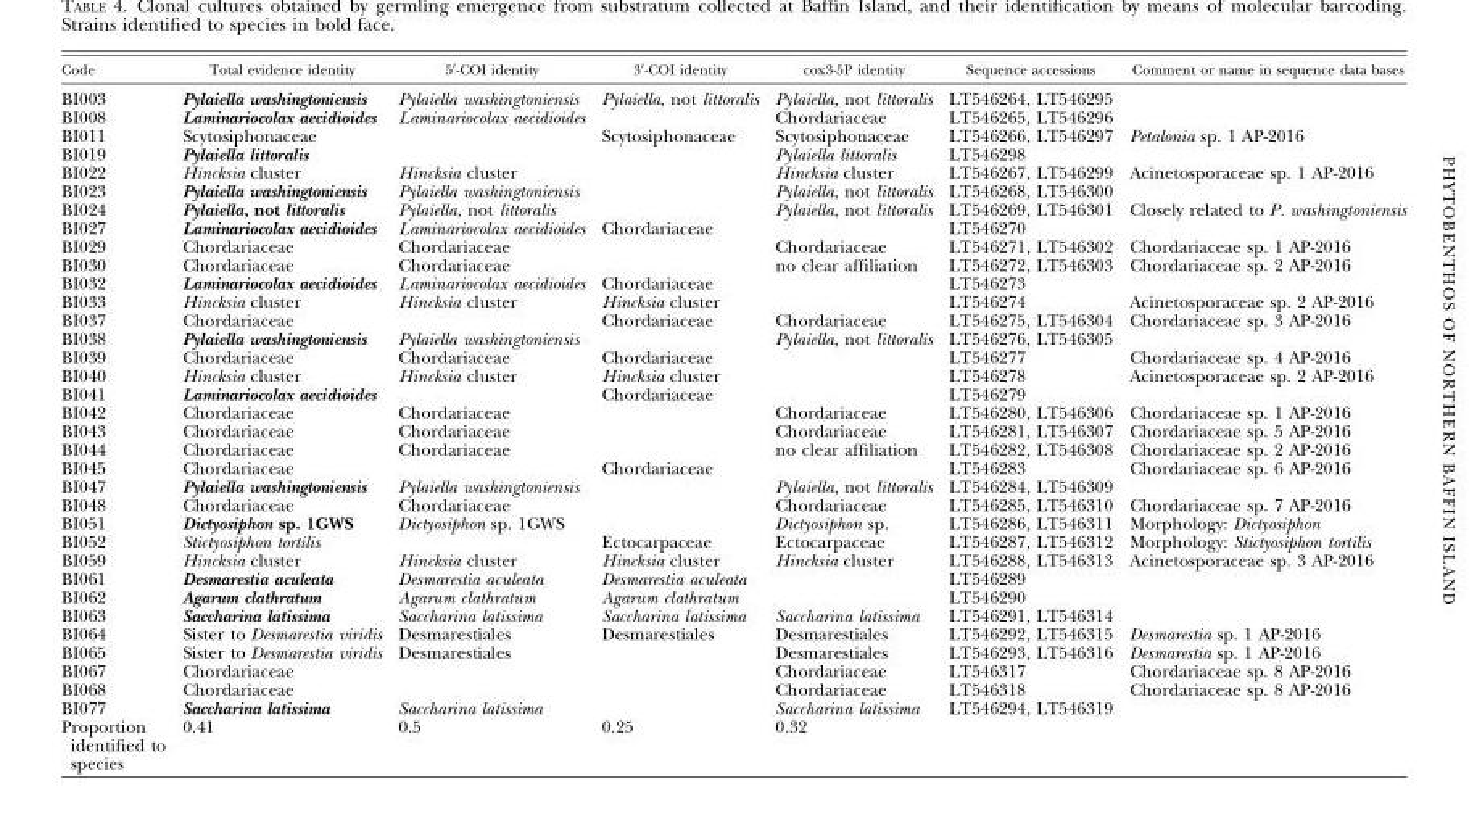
<table><thead><tr><td>Code</td><td>Total evidence identity</td><td>5′-COI identity</td><td>3′-COI identity</td><td>cox3-5P identity</td><td>Sequence accessions</td><td>Comment or name in sequence data bases</td></tr></thead><tbody><tr><td>BI003</td><td>Pylaiella washingtoniensis</td><td>Pylaiella washingtoniensis</td><td>Pylaiella, not littoralis</td><td>Pylaiella, not littoralis</td><td>LT546264, LT546295</td><td></td></tr><tr><td>BI008</td><td>Laminariocolax aecidioides</td><td>Laminariocolax aecidioides</td><td></td><td>Chordariaceae</td><td>LT546265, LT546296</td><td></td></tr><tr><td>BI011</td><td>Scytosiphonaceae</td><td></td><td>Scytosiphonaceae</td><td>Scytosiphonaceae</td><td>LT546266, LT546297</td><td>Petalonia sp. 1 AP-2016</td></tr><tr><td>BI019</td><td>Pylaiella littoralis</td><td></td><td></td><td>Pylaiella littoralis</td><td>LT546298</td><td></td></tr><tr><td>BI022</td><td>Hincksia cluster</td><td>Hincksia cluster</td><td></td><td>Hincksia cluster</td><td>LT546267, LT546299</td><td>Acinetosporaceae sp. 1 AP-2016</td></tr><tr><td>BI023</td><td>Pylaiella washingtoniensis</td><td>Pylaiella washingtoniensis</td><td></td><td>Pylaiella, not littoralis</td><td>LT546268, LT546300</td><td></td></tr><tr><td>BI024</td><td>Pylaiella, not littoralis</td><td>Pylaiella, not littoralis</td><td></td><td>Pylaiella, not littoralis</td><td>LT546269, LT546301</td><td>Closely related to P. washingtoniensis</td></tr><tr><td>BI027</td><td>Laminariocolax aecidioides</td><td>Laminariocolax aecidioides</td><td>Chordariaceae</td><td></td><td>LT546270</td><td></td></tr><tr><td>BI029</td><td>Chordariaceae</td><td>Chordariaceae</td><td></td><td>Chordariaceae</td><td>LT546271, LT546302</td><td>Chordariaceae sp. 1 AP-2016</td></tr><tr><td>BI030</td><td>Chordariaceae</td><td>Chordariaceae</td><td></td><td>no clear affiliation</td><td>LT546272, LT546303</td><td>Chordariaceae sp. 2 AP-2016</td></tr><tr><td>BI032</td><td>Laminariocolax aecidioides</td><td>Laminariocolax aecidioides</td><td>Chordariaceae</td><td></td><td>LT546273</td><td></td></tr><tr><td>BI033</td><td>Hincksia cluster</td><td>Hincksia cluster</td><td>Hincksia cluster</td><td></td><td>LT546274</td><td>Acinetosporaceae sp. 2 AP-2016</td></tr><tr><td>BI037</td><td>Chordariaceae</td><td></td><td>Chordariaceae</td><td>Chordariaceae</td><td>LT546275, LT546304</td><td>Chordariaceae sp. 3 AP-2016</td></tr><tr><td>BI038</td><td>Pylaiella washingtoniensis</td><td>Pylaiella washingtoniensis</td><td></td><td>Pylaiella, not littoralis</td><td>LT546276, LT546305</td><td></td></tr><tr><td>BI039</td><td>Chordariaceae</td><td>Chordariaceae</td><td>Chordariaceae</td><td></td><td>LT546277</td><td>Chordariaceae sp. 4 AP-2016</td></tr><tr><td>BI040</td><td>Hincksia cluster</td><td>Hincksia cluster</td><td>Hincksia cluster</td><td></td><td>LT546278</td><td>Acinetosporaceae sp. 2 AP-2016</td></tr><tr><td>BI041</td><td>Laminariocolax aecidioides</td><td></td><td>Chordariaceae</td><td></td><td>LT546279</td><td></td></tr><tr><td>BI042</td><td>Chordariaceae</td><td>Chordariaceae</td><td></td><td>Chordariaceae</td><td>LT546280, LT546306</td><td>Chordariaceae sp. 1 AP-2016</td></tr><tr><td>BI043</td><td>Chordariaceae</td><td>Chordariaceae</td><td></td><td>Chordariaceae</td><td>LT546281, LT546307</td><td>Chordariaceae sp. 5 AP-2016</td></tr><tr><td>BI044</td><td>Chordariaceae</td><td>Chordariaceae</td><td></td><td>no clear affiliation</td><td>LT546282, LT546308</td><td>Chordariaceae sp. 2 AP-2016</td></tr><tr><td>BI045</td><td>Chordariaceae</td><td></td><td>Chordariaceae</td><td></td><td>LT546283</td><td>Chordariaceae sp. 6 AP-2016</td></tr><tr><td>BI047</td><td>Pylaiella washingtoniensis</td><td>Pylaiella washingtoniensis</td><td></td><td>Pylaiella, not littoralis</td><td>LT546284, LT546309</td><td></td></tr><tr><td>BI048</td><td>Chordariaceae</td><td>Chordariaceae</td><td></td><td>Chordariaceae</td><td>LT546285, LT546310</td><td>Chordariaceae sp. 7 AP-2016</td></tr><tr><td>BI051</td><td>Dictyosiphon sp. 1GWS</td><td>Dictyosiphon sp. 1GWS</td><td></td><td>Dictyosiphon sp.</td><td>LT546286, LT546311</td><td>Morphology: Dictyosiphon</td></tr><tr><td>BI052</td><td>Stictyosiphon tortilis</td><td></td><td>Ectocarpaceae</td><td>Ectocarpaceae</td><td>LT546287, LT546312</td><td>Morphology: Stictyosiphon tortilis</td></tr><tr><td>BI059</td><td>Hincksia cluster</td><td>Hincksia cluster</td><td>Hincksia cluster</td><td>Hincksia cluster</td><td>LT546288, LT546313</td><td>Acinetosporaceae sp. 3 AP-2016</td></tr><tr><td>BI061</td><td>Desmarestia aculeata</td><td>Desmarestia aculeata</td><td>Desmarestia aculeata</td><td></td><td>LT546289</td><td></td></tr><tr><td>BI062</td><td>Agarum clathratum</td><td>Agarum clathratum</td><td>Agarum clathratum</td><td></td><td>LT546290</td><td></td></tr><tr><td>BI063</td><td>Saccharina latissima</td><td>Saccharina latissima</td><td>Saccharina latissima</td><td>Saccharina latissima</td><td>LT546291, LT546314</td><td></td></tr><tr><td>BI064</td><td>Sister to Desmarestia viridis</td><td>Desmarestiales</td><td>Desmarestiales</td><td>Desmarestiales</td><td>LT546292, LT546315</td><td>Desmarestia sp. 1 AP-2016</td></tr><tr><td>BI065</td><td>Sister to Desmarestia viridis</td><td>Desmarestiales</td><td></td><td>Desmarestiales</td><td>LT546293, LT546316</td><td>Desmarestia sp. 1 AP-2016</td></tr><tr><td>BI067</td><td>Chordariaceae</td><td></td><td></td><td>Chordariaceae</td><td>LT546317</td><td>Chordariaceae sp. 8 AP-2016</td></tr><tr><td>BI068</td><td>Chordariaceae</td><td></td><td></td><td>Chordariaceae</td><td>LT546318</td><td>Chordariaceae sp. 8 AP-2016</td></tr><tr><td>BI077</td><td>Saccharina latissima</td><td>Saccharina latissima</td><td></td><td>Saccharina latissima</td><td>LT546294, LT546319</td><td></td></tr><tr><td>Proportion identified to species</td><td>0.41</td><td>0.5</td><td>0.25</td><td>0.32</td><td></td><td></td></tr></tbody></table>